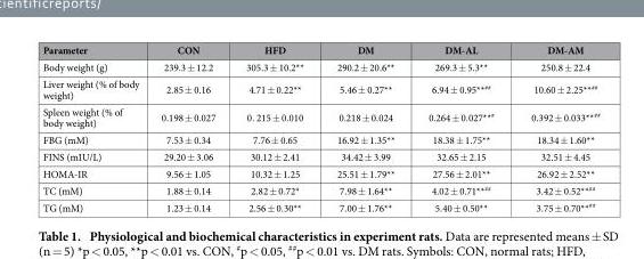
<table><thead><tr><td>Parameter</td><td>CON</td><td>HFD</td><td>DM</td><td>DM-AL</td><td>DM-AM</td></tr></thead><tbody><tr><td>Body weight (g)</td><td>239.3 ± 12.2</td><td>305.3 ± 10.2**</td><td>290.2 ± 20.6**</td><td>269.3 ± 5.3**</td><td>250.8 ± 22.4</td></tr><tr><td>Liver weight (% of body weight)</td><td>2.85 ± 0.16</td><td>4.71 ± 0.22**</td><td>5.46 ± 0.27**</td><td>6.94 ± 0.95**<sup>##</sup></td><td>10.60 ± 2.25**<sup>##</sup></td></tr><tr><td>Spleen weight (% of body weight)</td><td>0.198 ± 0.027</td><td>0. 215 ± 0.010</td><td>0.218 ± 0.024</td><td>0.264 ± 0.027**<sup>#</sup></td><td>0.392 ± 0.033**<sup>##</sup></td></tr><tr><td>FBG (mM)</td><td>7.53 ± 0.34</td><td>7.76 ± 0.65</td><td>16.92 ± 1.35**</td><td>18.38 ± 1.75**</td><td>18.34 ± 1.60**</td></tr><tr><td>FINS (mIU/L)</td><td>29.20 ± 3.06</td><td>30.12 ± 2.41</td><td>34.42 ± 3.99</td><td>32.65 ± 2.15</td><td>32.51 ± 4.45</td></tr><tr><td>HOMA-IR</td><td>9.56 ± 1.05</td><td>10.32 ± 1.25</td><td>25.51 ± 1.79**</td><td>27.56 ± 2.01**</td><td>26.92 ± 2.52**</td></tr><tr><td>TC (mM)</td><td>1.88 ± 0.14</td><td>2.82 ± 0.72*</td><td>7.98 ± 1.64**</td><td>4.02 ± 0.71**<sup>##</sup></td><td>3.42 ± 0.52**<sup>##</sup></td></tr><tr><td>TG (mM)</td><td>1.23 ± 0.14</td><td>2.56 ± 0.30**</td><td>7.00 ± 1.76**</td><td>5.40 ± 0.50**</td><td>3.75 ± 0.70**<sup>##</sup></td></tr></tbody></table>